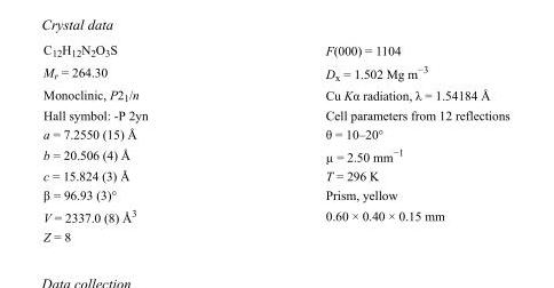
<table><tbody><tr><td>C<sub>12</sub>H<sub>12</sub>N<sub>2</sub>O<sub>3</sub>S</td><td>F(000) = 1104</td></tr><tr><td>M<sub>r</sub> = 264.30</td><td>D<sub>x</sub> = 1.502 Mg m<sup>−3</sup></td></tr><tr><td>Monoclinic, P2<sub>1</sub>/n</td><td>Cu Kα radiation, λ = 1.54184 Å</td></tr><tr><td>Hall symbol: -P 2yn</td><td>Cell parameters from 12 reflections</td></tr><tr><td>a = 7.2550 (15) Å</td><td>θ = 10–20°</td></tr><tr><td>b = 20.506 (4) Å</td><td>µ = 2.50 mm<sup>−1</sup></td></tr><tr><td>c = 15.824 (3) Å</td><td>T = 296 K</td></tr><tr><td>β = 96.93 (3)°</td><td>Prism, yellow</td></tr><tr><td>V = 2337.0 (8) Å<sup>3</sup></td><td>0.60 × 0.40 × 0.15 mm</td></tr><tr><td>Z = 8</td><td></td></tr></tbody></table>